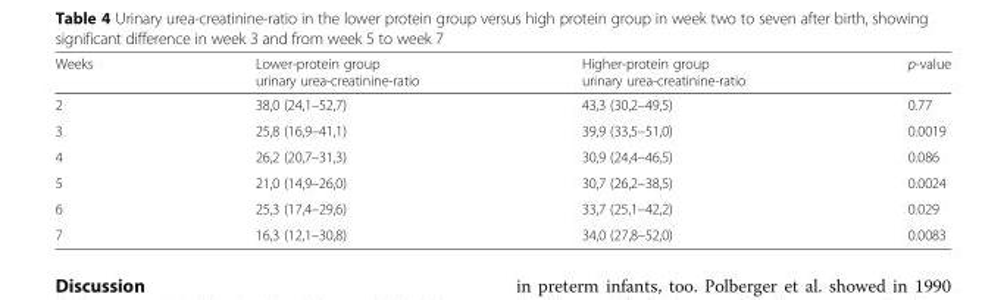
<table><thead><tr><td>Weeks</td><td>Lower-protein group urinary urea-creatinine-ratio</td><td>Higher-protein group urinary urea-creatinine-ratio</td><td>p-value</td></tr></thead><tbody><tr><td>2</td><td>38,0 (24,1–52,7)</td><td>43,3 (30,2–49,5)</td><td>0.77</td></tr><tr><td>3</td><td>25,8 (16,9–41,1)</td><td>39,9 (33,5–51,0)</td><td>0.0019</td></tr><tr><td>4</td><td>26,2 (20,7–31,3)</td><td>30,9 (24,4–46,5)</td><td>0.086</td></tr><tr><td>5</td><td>21,0 (14,9–26,0)</td><td>30,7 (26,2–38,5)</td><td>0.0024</td></tr><tr><td>6</td><td>25,3 (17,4–29,6)</td><td>33,7 (25,1–42,2)</td><td>0.029</td></tr><tr><td>7</td><td>16,3 (12,1–30,8)</td><td>34,0 (27,8–52,0)</td><td>0.0083</td></tr></tbody></table>